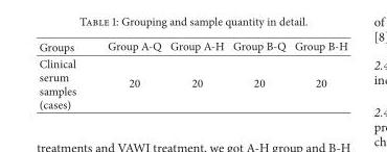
<table><thead><tr><td>Groups</td><td>Group A-Q</td><td>Group A-H</td><td>Group B-Q</td><td>Group B-H</td></tr></thead><tbody><tr><td>Clinical serum samples (cases)</td><td>20</td><td>20</td><td>20</td><td>20</td></tr></tbody></table>